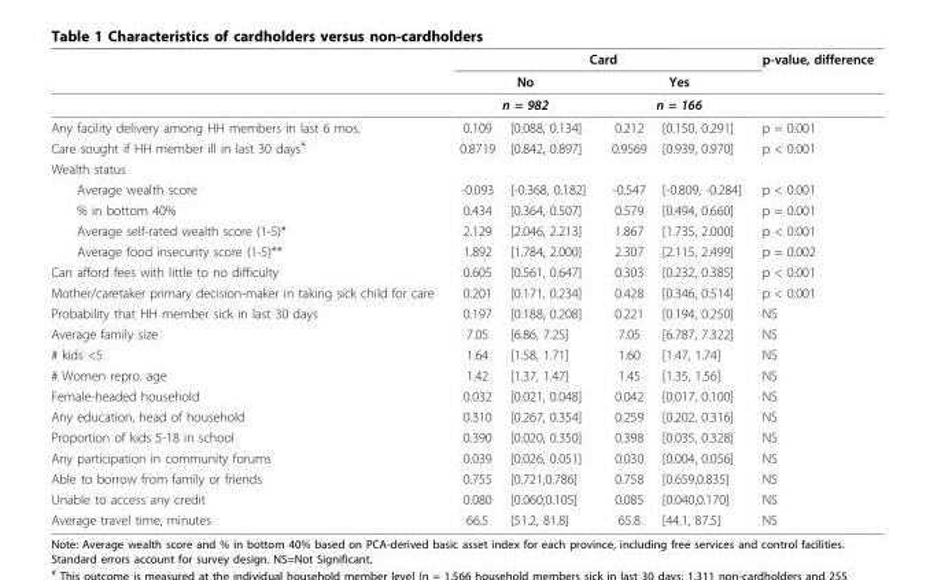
<table><thead><tr><td rowspan="4">Any facility delivery among HH members in last 6 mos.</td><td colspan="4">Card</td><td rowspan="4">p-value, difference p = 0.001</td></tr><tr><td rowspan="2" colspan="2">No n = 982</td><td rowspan="2" colspan="2">Yes n = 166</td></tr><tr></tr><tr><td>0.109</td><td>[0.088, 0.134]</td><td>0.212</td><td>[0.150, 0.291]</td></tr></thead><tbody><tr><td>Care sought if HH member ill in last 30 days<sup>¥</sup></td><td>0.8719</td><td>[0.842, 0.897]</td><td>0.9569</td><td>[0.939, 0.970]</td><td>p &lt; 0.001</td></tr><tr><td colspan="6">Wealth status</td></tr><tr><td>Average wealth score</td><td>-0.093</td><td>[-0.368, 0.182]</td><td>-0.547</td><td>[-0.809, -0.284]</td><td>p &lt; 0.001</td></tr><tr><td>% in bottom 40%</td><td>0.434</td><td>[0.364, 0.507]</td><td>0.579</td><td>[0.494, 0.660]</td><td>p = 0.001</td></tr><tr><td>Average self-rated wealth score (1-5)*</td><td>2.129</td><td>[2.046, 2.213]</td><td>1.867</td><td>[1.735, 2.000]</td><td>p &lt; 0.001</td></tr><tr><td>Average food insecurity score (1-5)**</td><td>1.892</td><td>[1.784, 2.000]</td><td>2.307</td><td>[2.115, 2.499]</td><td>p = 0.002</td></tr><tr><td>Can afford fees with little to no difficulty</td><td>0.605</td><td>[0.561, 0.647]</td><td>0.303</td><td>[0.232, 0.385]</td><td>p &lt; 0.001</td></tr><tr><td>Mother/caretaker primary decision-maker in taking sick child for care</td><td>0.201</td><td>[0.171, 0.234]</td><td>0.428</td><td>[0.346, 0.514]</td><td>p &lt; 0.001</td></tr><tr><td>Probability that HH member sick in last 30 days</td><td>0.197</td><td>[0.188, 0.208]</td><td>0.221</td><td>[0.194, 0.250]</td><td>NS</td></tr><tr><td>Average family size</td><td>7.05</td><td>[6.86, 7.25]</td><td>7.05</td><td>[6.787, 7.322]</td><td>NS</td></tr><tr><td># kids &lt;5</td><td>1.64</td><td>[1.58, 1.71]</td><td>1.60</td><td>[1.47, 1.74]</td><td>NS</td></tr><tr><td># Women repro. age</td><td>1.42</td><td>[1.37, 1.47]</td><td>1.45</td><td>[1.35, 1.56]</td><td>NS</td></tr><tr><td>Female-headed household</td><td>0.032</td><td>[0.021, 0.048]</td><td>0.042</td><td>[0.017, 0.100]</td><td>NS</td></tr><tr><td>Any education, head of household</td><td>0.310</td><td>[0.267, 0.354]</td><td>0.259</td><td>[0.202, 0.316]</td><td>NS</td></tr><tr><td>Proportion of kids 5-18 in school</td><td>0.390</td><td>[0.020, 0.350]</td><td>0.398</td><td>[0.035, 0.328]</td><td>NS</td></tr><tr><td>Any participation in community forums</td><td>0.039</td><td>[0.026, 0.051]</td><td>0.030</td><td>[0.004, 0.056]</td><td>NS</td></tr><tr><td>Able to borrow from family or friends</td><td>0.755</td><td>[0.721,0.786]</td><td>0.758</td><td>[0.659,0.835]</td><td>NS</td></tr><tr><td>Unable to access any credit</td><td>0.080</td><td>[0.060,0.105]</td><td>0.085</td><td>[0.040,0.170]</td><td>NS</td></tr><tr><td>Average travel time, minutes</td><td>66.5</td><td>[51.2, 81.8]</td><td>65.8</td><td>[44.1, 87.5]</td><td>NS</td></tr></tbody></table>